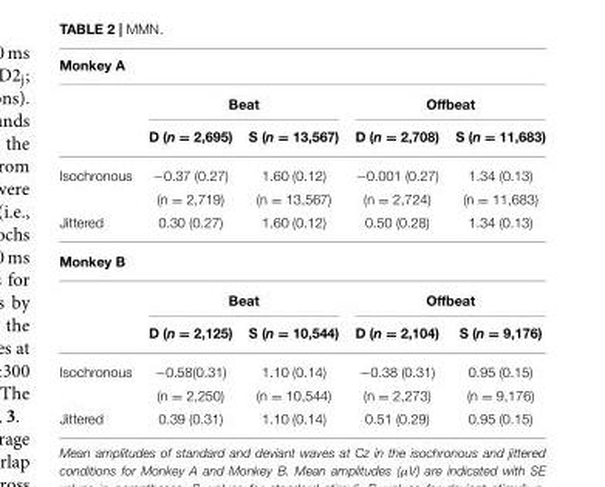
<table><thead><tr><td colspan="5">Monkey A</td></tr><tr><td rowspan="2"></td><td colspan="2">Beat</td><td colspan="2">Offbeat</td></tr><tr><td>D (n = 2,695)</td><td>S (n = 13,567)</td><td>D (n = 2,708)</td><td>S (n = 11,683)</td></tr></thead><tbody><tr><td rowspan="2">Isochronous</td><td>−0.37 (0.27)</td><td>1.60 (0.12)</td><td>−0.001 (0.27)</td><td>1.34 (0.13)</td></tr><tr><td>(n = 2,719)</td><td>(n = 13,567)</td><td>(n = 2,724)</td><td>(n = 11,683)</td></tr><tr><td>Jittered</td><td>0.30 (0.27)</td><td>1.60 (0.12)</td><td>0.50 (0.28)</td><td>1.34 (0.13)</td></tr><tr><td colspan="5">Monkey B</td></tr><tr><td></td><td colspan="2">Beat</td><td colspan="2">Offbeat</td></tr><tr><td></td><td>D (n = 2,125)</td><td>S (n = 10,544)</td><td>D (n = 2,104)</td><td>S (n = 9,176)</td></tr><tr><td rowspan="2">Isochronous</td><td>−0.58(0.31)</td><td>1.10 (0.14)</td><td>−0.38 (0.31)</td><td>0.95 (0.15)</td></tr><tr><td>(n = 2,250)</td><td>(n = 10,544)</td><td>(n = 2,273)</td><td>(n = 9,176)</td></tr><tr><td>Jittered</td><td>0.39 (0.31)</td><td>1.10 (0.14)</td><td>0.51 (0.29)</td><td>0.95 (0.15)</td></tr></tbody></table>